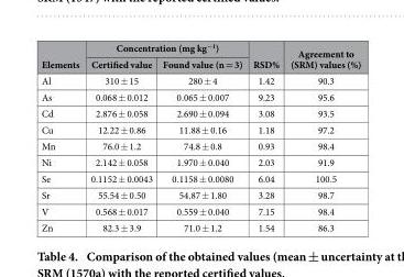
<table><thead><tr><td rowspan="2">Elements</td><td colspan="2">Concentration (mg kg<sup>−1</sup>)</td><td rowspan="2">RSD%</td><td rowspan="2">Agreement to (SRM) values (%)</td></tr><tr><td>Certified value</td><td>Found value (n = 3)</td></tr></thead><tbody><tr><td>Al</td><td>310 ± 15</td><td>280 ± 4</td><td>1.42</td><td>90.3</td></tr><tr><td>As</td><td>0.068 ± 0.012</td><td>0.065 ± 0.007</td><td>9.23</td><td>95.6</td></tr><tr><td>Cd</td><td>2.876 ± 0.058</td><td>2.690 ± 0.094</td><td>3.08</td><td>93.5</td></tr><tr><td>Cu</td><td>12.22 ± 0.86</td><td>11.88 ± 0.16</td><td>1.18</td><td>97.2</td></tr><tr><td>Mn</td><td>76.0 ± 1.2</td><td>74.8 ± 0.8</td><td>0.93</td><td>98.4</td></tr><tr><td>Ni</td><td>2.142 ± 0.058</td><td>1.970 ± 0.040</td><td>2.03</td><td>91.9</td></tr><tr><td>Se</td><td>0.1152 ± 0.0043</td><td>0.1158 ± 0.0080</td><td>6.04</td><td>100.5</td></tr><tr><td>Sr</td><td>55.54 ± 0.50</td><td>54.87 ± 1.80</td><td>3.28</td><td>98.7</td></tr><tr><td>V</td><td>0.568 ± 0.017</td><td>0.559 ± 0.040</td><td>7.15</td><td>98.4</td></tr><tr><td>Zn</td><td>82.3 ± 3.9</td><td>71.0 ± 1.2</td><td>1.54</td><td>86.3</td></tr></tbody></table>